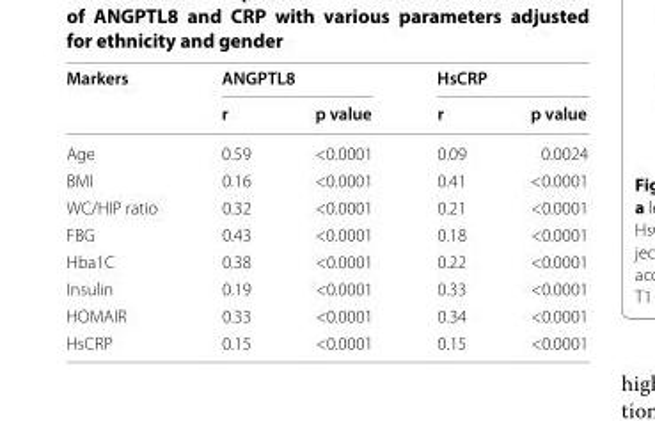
<table><thead><tr><td rowspan="2">Markers</td><td colspan="2">ANGPTL8</td><td colspan="2">HsCRP</td></tr><tr><td>r</td><td>p value</td><td>r</td><td>p value</td></tr></thead><tbody><tr><td>Age</td><td>0.59</td><td>&lt;0.0001</td><td>0.09</td><td>0.0024</td></tr><tr><td>BMI</td><td>0.16</td><td>&lt;0.0001</td><td>0.41</td><td>&lt;0.0001</td></tr><tr><td>WC/HIP ratio</td><td>0.32</td><td>&lt;0.0001</td><td>0.21</td><td>&lt;0.0001</td></tr><tr><td>FBG</td><td>0.43</td><td>&lt;0.0001</td><td>0.18</td><td>&lt;0.0001</td></tr><tr><td>Hba1C</td><td>0.38</td><td>&lt;0.0001</td><td>0.22</td><td>&lt;0.0001</td></tr><tr><td>Insulin</td><td>0.19</td><td>&lt;0.0001</td><td>0.33</td><td>&lt;0.0001</td></tr><tr><td>HOMAIR</td><td>0.33</td><td>&lt;0.0001</td><td>0.34</td><td>&lt;0.0001</td></tr><tr><td>HsCRP</td><td>0.15</td><td>&lt;0.0001</td><td>0.15</td><td>&lt;0.0001</td></tr></tbody></table>